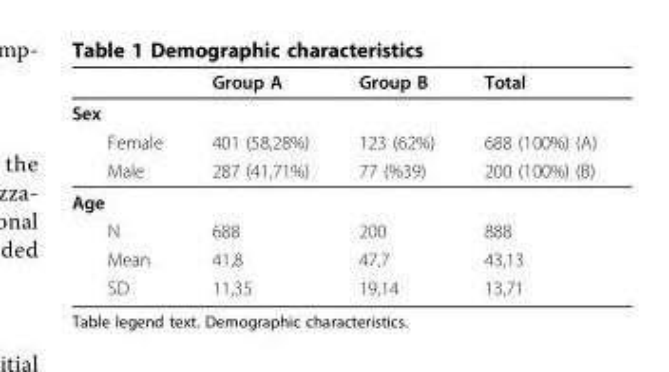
<table><thead><tr><td></td><td>Group A</td><td>Group B</td><td>Total</td></tr></thead><tbody><tr><td colspan="4">Sex</td></tr><tr><td>Female</td><td>401 (58,28%)</td><td>123 (62%)</td><td>688 (100%) (A)</td></tr><tr><td>Male</td><td>287 (41,71%)</td><td>77 (%39)</td><td>200 (100%) (B)</td></tr><tr><td colspan="4">Age</td></tr><tr><td>N</td><td>688</td><td>200</td><td>888</td></tr><tr><td>Mean</td><td>41,8</td><td>47,7</td><td>43,13</td></tr><tr><td>SD</td><td>11,35</td><td>19,14</td><td>13,71</td></tr></tbody></table>